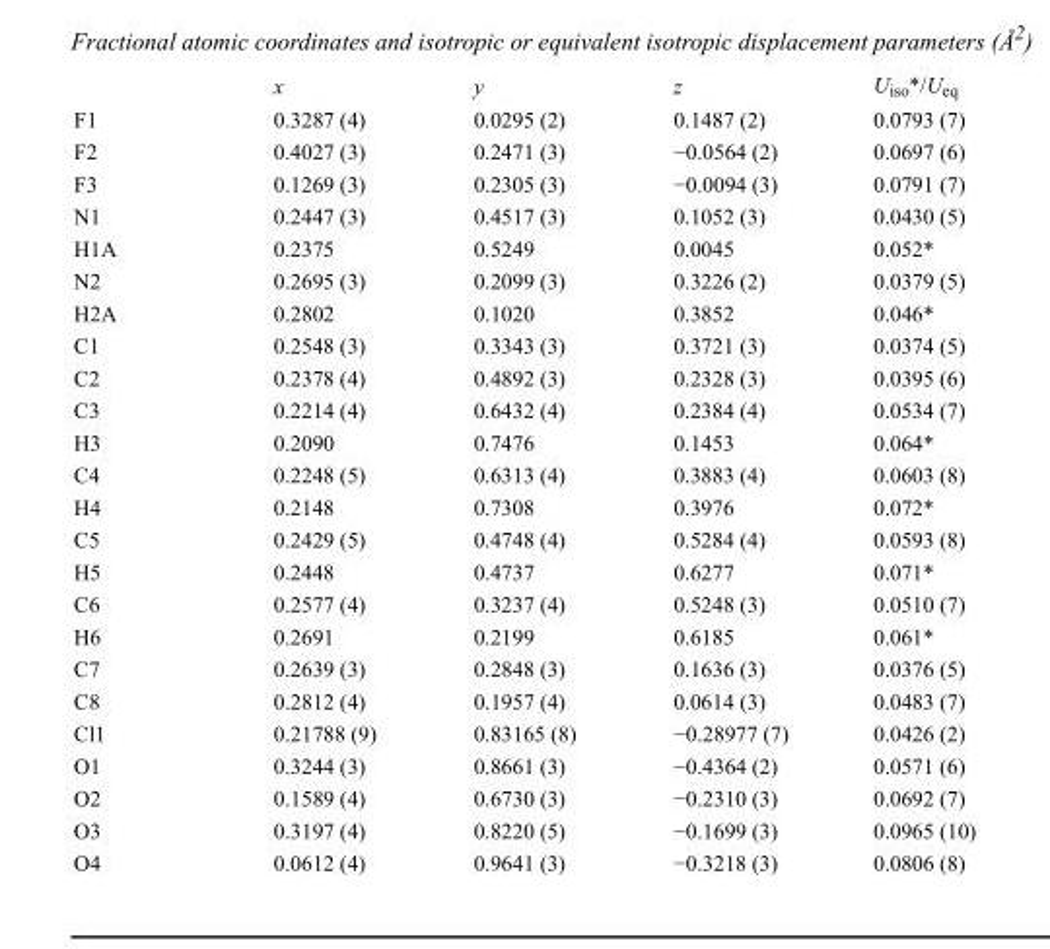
<table><thead><tr><td></td><td>x</td><td>y</td><td>z</td><td>U<sub>iso</sub>*/U<sub>eq</sub></td></tr></thead><tbody><tr><td>F1</td><td>0.3287 (4)</td><td>0.0295 (2)</td><td>0.1487 (2)</td><td>0.0793 (7)</td></tr><tr><td>F2</td><td>0.4027 (3)</td><td>0.2471 (3)</td><td>−0.0564 (2)</td><td>0.0697 (6)</td></tr><tr><td>F3</td><td>0.1269 (3)</td><td>0.2305 (3)</td><td>−0.0094 (3)</td><td>0.0791 (7)</td></tr><tr><td>N1</td><td>0.2447 (3)</td><td>0.4517 (3)</td><td>0.1052 (3)</td><td>0.0430 (5)</td></tr><tr><td>H1A</td><td>0.2375</td><td>0.5249</td><td>0.0045</td><td>0.052*</td></tr><tr><td>N2</td><td>0.2695 (3)</td><td>0.2099 (3)</td><td>0.3226 (2)</td><td>0.0379 (5)</td></tr><tr><td>H2A</td><td>0.2802</td><td>0.1020</td><td>0.3852</td><td>0.046*</td></tr><tr><td>C1</td><td>0.2548 (3)</td><td>0.3343 (3)</td><td>0.3721 (3)</td><td>0.0374 (5)</td></tr><tr><td>C2</td><td>0.2378 (4)</td><td>0.4892 (3)</td><td>0.2328 (3)</td><td>0.0395 (6)</td></tr><tr><td>C3</td><td>0.2214 (4)</td><td>0.6432 (4)</td><td>0.2384 (4)</td><td>0.0534 (7)</td></tr><tr><td>H3</td><td>0.2090</td><td>0.7476</td><td>0.1453</td><td>0.064*</td></tr><tr><td>C4</td><td>0.2248 (5)</td><td>0.6313 (4)</td><td>0.3883 (4)</td><td>0.0603 (8)</td></tr><tr><td>H4</td><td>0.2148</td><td>0.7308</td><td>0.3976</td><td>0.072*</td></tr><tr><td>C5</td><td>0.2429 (5)</td><td>0.4748 (4)</td><td>0.5284 (4)</td><td>0.0593 (8)</td></tr><tr><td>H5</td><td>0.2448</td><td>0.4737</td><td>0.6277</td><td>0.071*</td></tr><tr><td>C6</td><td>0.2577 (4)</td><td>0.3237 (4)</td><td>0.5248 (3)</td><td>0.0510 (7)</td></tr><tr><td>H6</td><td>0.2691</td><td>0.2199</td><td>0.6185</td><td>0.061*</td></tr><tr><td>C7</td><td>0.2639 (3)</td><td>0.2848 (3)</td><td>0.1636 (3)</td><td>0.0376 (5)</td></tr><tr><td>C8</td><td>0.2812 (4)</td><td>0.1957 (4)</td><td>0.0614 (3)</td><td>0.0483 (7)</td></tr><tr><td>Cl1</td><td>0.21788 (9)</td><td>0.83165 (8)</td><td>−0.28977 (7)</td><td>0.0426 (2)</td></tr><tr><td>O1</td><td>0.3244 (3)</td><td>0.8661 (3)</td><td>−0.4364 (2)</td><td>0.0571 (6)</td></tr><tr><td>O2</td><td>0.1589 (4)</td><td>0.6730 (3)</td><td>−0.2310 (3)</td><td>0.0692 (7)</td></tr><tr><td>O3</td><td>0.3197 (4)</td><td>0.8220 (5)</td><td>−0.1699 (3)</td><td>0.0965 (10)</td></tr><tr><td>O4</td><td>0.0612 (4)</td><td>0.9641 (3)</td><td>−0.3218 (3)</td><td>0.0806 (8)</td></tr></tbody></table>